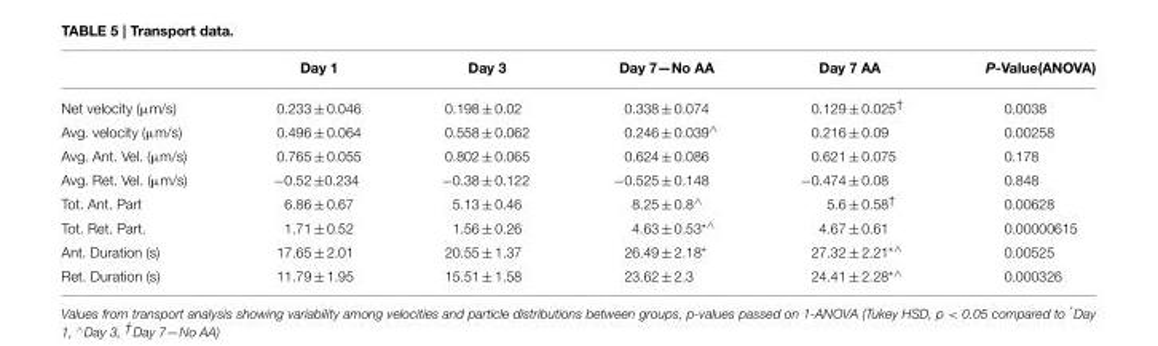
<table><thead><tr><td></td><td>Day 1</td><td>Day 3</td><td>Day 7—No AA</td><td>Day 7 AA</td><td>P-Value(ANOVA)</td></tr></thead><tbody><tr><td>Net velocity (µm/s)</td><td>0.233 ± 0.046</td><td>0.198 ± 0.02</td><td>0.338 ± 0.074</td><td>0.129 ± 0.025<sup>†</sup></td><td>0.0038</td></tr><tr><td>Avg. velocity (µm/s)</td><td>0.496 ± 0.064</td><td>0.558 ± 0.062</td><td>0.246 ± 0.039<sup>∧</sup></td><td>0.216 ± 0.09</td><td>0.00258</td></tr><tr><td>Avg. Ant. Vel. (µm/s)</td><td>0.765 ± 0.055</td><td>0.802 ± 0.065</td><td>0.624 ± 0.086</td><td>0.621 ± 0.075</td><td>0.178</td></tr><tr><td>Avg. Ret. Vel. (µm/s)</td><td>−0.52 ±0.234</td><td>−0.38 ± 0.122</td><td>−0.525 ± 0.148</td><td>−0.474 ± 0.08</td><td>0.848</td></tr><tr><td>Tot. Ant. Part</td><td>6.86 ± 0.67</td><td>5.13 ± 0.46</td><td>8.25 ± 0.8<sup>∧</sup></td><td>5.6 ± 0.58<sup>†</sup></td><td>0.00628</td></tr><tr><td>Tot. Ret. Part.</td><td>1.71 ± 0.52</td><td>1.56 ± 0.26</td><td>4.63 ± 0.53<sup>*∧</sup></td><td>4.67 ± 0.61</td><td>0.00000615</td></tr><tr><td>Ant. Duration (s)</td><td>17.65 ± 2.01</td><td>20.55 ± 1.37</td><td>26.49 ± 2.18*</td><td>27.32 ± 2.21<sup>*∧</sup></td><td>0.00525</td></tr><tr><td>Ret. Duration (s)</td><td>11.79 ± 1.95</td><td>15.51 ± 1.58</td><td>23.62 ± 2.3</td><td>24.41 ± 2.28<sup>*∧</sup></td><td>0.000326</td></tr></tbody></table>